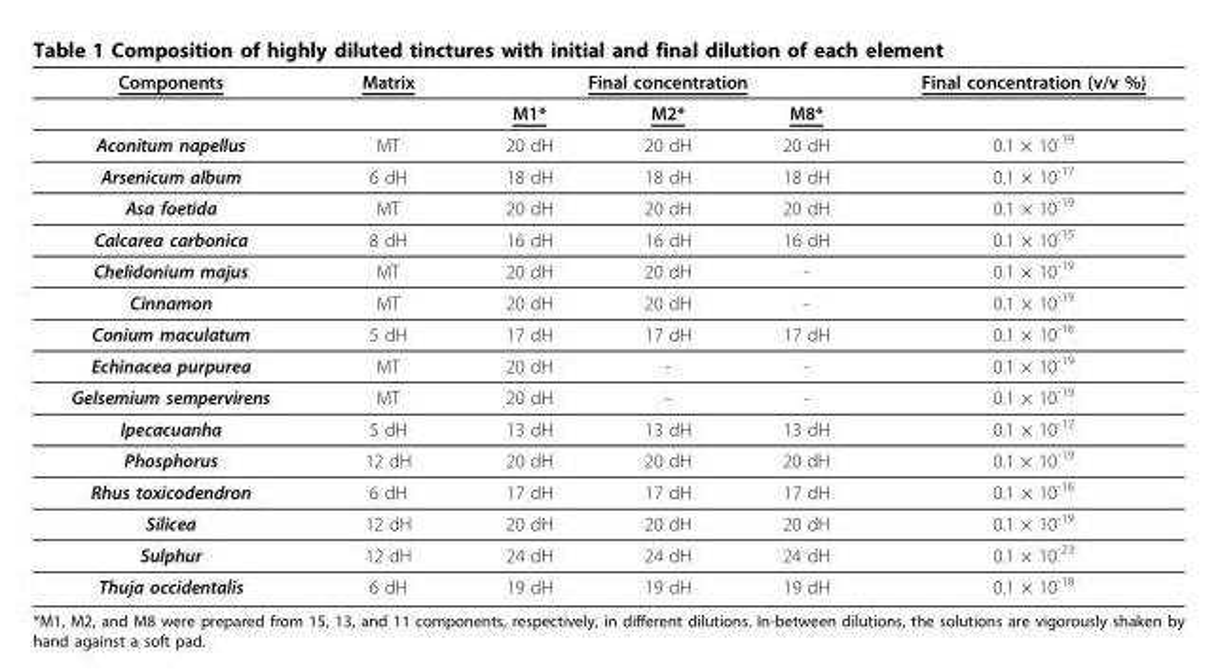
<table><thead><tr><td rowspan="2">Components</td><td rowspan="2">Matrix</td><td colspan="3">Final concentration</td><td rowspan="2">Final concentration (v/v %)</td></tr><tr><td>M1*</td><td>M2*</td><td>M8*</td></tr></thead><tbody><tr><td>Aconitum napellus</td><td>MT</td><td>20 dH</td><td>20 dH</td><td>20 dH</td><td>0.1 × 10<sup>-19</sup></td></tr><tr><td>Arsenicum album</td><td>6 dH</td><td>18 dH</td><td>18 dH</td><td>18 dH</td><td>0.1 × 10<sup>-17</sup></td></tr><tr><td>Asa foetida</td><td>MT</td><td>20 dH</td><td>20 dH</td><td>20 dH</td><td>0.1 × 10<sup>-19</sup></td></tr><tr><td>Calcarea carbonica</td><td>8 dH</td><td>16 dH</td><td>16 dH</td><td>16 dH</td><td>0.1 × 10<sup>-15</sup></td></tr><tr><td>Chelidonium majus</td><td>MT</td><td>20 dH</td><td>20 dH</td><td>-</td><td>0.1 × 10<sup>-19</sup></td></tr><tr><td>Cinnamon</td><td>MT</td><td>20 dH</td><td>20 dH</td><td>-</td><td>0.1 × 10<sup>-19</sup></td></tr><tr><td>Conium maculatum</td><td>5 dH</td><td>17 dH</td><td>17 dH</td><td>17 dH</td><td>0.1 × 10<sup>-16</sup></td></tr><tr><td>Echinacea purpurea</td><td>MT</td><td>20 dH</td><td>-</td><td>-</td><td>0.1 × 10<sup>-19</sup></td></tr><tr><td>Gelsemium sempervirens</td><td>MT</td><td>20 dH</td><td>-</td><td>-</td><td>0.1 × 10<sup>-19</sup></td></tr><tr><td>Ipecacuanha</td><td>5 dH</td><td>13 dH</td><td>13 dH</td><td>13 dH</td><td>0.1 × 10<sup>-12</sup></td></tr><tr><td>Phosphorus</td><td>12 dH</td><td>20 dH</td><td>20 dH</td><td>20 dH</td><td>0.1 × 10<sup>-19</sup></td></tr><tr><td>Rhus toxicodendron</td><td>6 dH</td><td>17 dH</td><td>17 dH</td><td>17 dH</td><td>0.1 × 10<sup>-16</sup></td></tr><tr><td>Silicea</td><td>12 dH</td><td>20 dH</td><td>20 dH</td><td>20 dH</td><td>0.1 × 10<sup>-19</sup></td></tr><tr><td>Sulphur</td><td>12 dH</td><td>24 dH</td><td>24 dH</td><td>24 dH</td><td>0.1 × 10<sup>-23</sup></td></tr><tr><td>Thuja occidentalis</td><td>6 dH</td><td>19 dH</td><td>19 dH</td><td>19 dH</td><td>0.1 × 10<sup>-18</sup></td></tr></tbody></table>